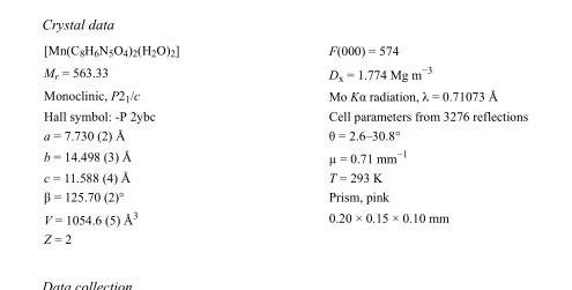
<table><tbody><tr><td>[Mn(C<sub>8</sub>H<sub>6</sub>N<sub>5</sub>O<sub>4</sub>)<sub>2</sub>(H<sub>2</sub>O)<sub>2</sub>]</td><td>F(000) = 574</td></tr><tr><td>M<sub>r</sub> = 563.33</td><td>D<sub>x</sub> = 1.774 Mg m<sup>−3</sup></td></tr><tr><td>Monoclinic, P2<sub>1</sub>/c</td><td>Mo Kα radiation, λ = 0.71073 Å</td></tr><tr><td>Hall symbol: -P 2ybc</td><td>Cell parameters from 3276 reflections</td></tr><tr><td>a = 7.730 (2) Å</td><td>θ = 2.6–30.8°</td></tr><tr><td>b = 14.498 (3) Å</td><td>µ = 0.71 mm<sup>−1</sup></td></tr><tr><td>c = 11.588 (4) Å</td><td>T = 293 K</td></tr><tr><td>β = 125.70 (2)°</td><td>Prism, pink</td></tr><tr><td>V = 1054.6 (5) Å<sup>3</sup></td><td>0.20 × 0.15 × 0.10 mm</td></tr><tr><td>Z = 2</td><td></td></tr></tbody></table>